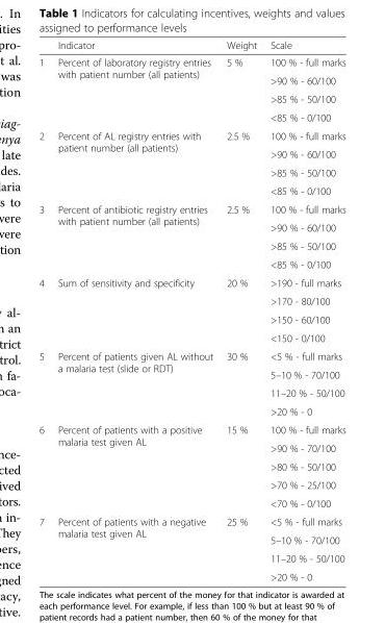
<table><thead><tr><td></td><td>Indicator</td><td>Weight</td><td>Scale</td></tr></thead><tbody><tr><td rowspan="4">1</td><td rowspan="4">Percent of laboratory registry entries with patient number (all patients)</td><td rowspan="4">5 %</td><td>100 % - full marks</td></tr><tr><td>&gt;90 % - 60/100</td></tr><tr><td>&gt;85 % - 50/100</td></tr><tr><td>&lt;85 % - 0/100</td></tr><tr><td rowspan="4">2</td><td rowspan="4">Percent of AL registry entries with patient number (all patients)</td><td rowspan="4">2.5 %</td><td>100 % - full marks</td></tr><tr><td>&gt;90 % - 60/100</td></tr><tr><td>&gt;85 % - 50/100</td></tr><tr><td>&lt;85 % - 0/100</td></tr><tr><td rowspan="4">3</td><td rowspan="4">Percent of antibiotic registry entries with patient number (all patients)</td><td rowspan="4">2.5 %</td><td>100 % - full marks</td></tr><tr><td>&gt;90 % - 60/100</td></tr><tr><td>&gt;85 % - 50/100</td></tr><tr><td>&lt;85 % - 0/100</td></tr><tr><td rowspan="4">4</td><td rowspan="4">Sum of sensitivity and specificity</td><td rowspan="4">20 %</td><td>&gt;190 - full marks</td></tr><tr><td>&gt;170 - 80/100</td></tr><tr><td>&gt;150 - 60/100</td></tr><tr><td>&lt;150 - 0/100</td></tr><tr><td rowspan="4">5</td><td rowspan="4">Percent of patients given AL without a malaria test (slide or RDT)</td><td rowspan="4">30 %</td><td>&lt;5 % - full marks</td></tr><tr><td>5–10 % - 70/100</td></tr><tr><td>11–20 % - 50/100</td></tr><tr><td>&gt;20 % - 0</td></tr><tr><td rowspan="5">6</td><td rowspan="5">Percent of patients with a positive malaria test given AL</td><td rowspan="5">15 %</td><td>100 % - full marks</td></tr><tr><td>&gt;90 % - 70/100</td></tr><tr><td>&gt;80 % - 50/100</td></tr><tr><td>&gt;70 % - 25/100</td></tr><tr><td>&lt;70 % - 0/100</td></tr><tr><td rowspan="4">7</td><td rowspan="4">Percent of patients with a negative malaria test given AL</td><td rowspan="4">25 %</td><td>&lt;5 % - full marks</td></tr><tr><td>5–10 % - 70/100</td></tr><tr><td>11–20 % - 50/100</td></tr><tr><td>&gt;20 % - 0</td></tr></tbody></table>